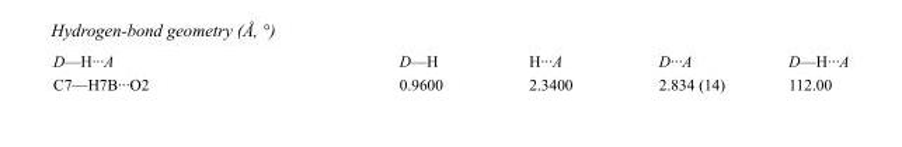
<table><tbody><tr><td>D—H···A</td><td>D—H</td><td>H···A</td><td>D···A</td><td>D—H···A</td></tr><tr><td>C7—H7B···O2</td><td>0.9600</td><td>2.3400</td><td>2.834 (14)</td><td>112.00</td></tr></tbody></table>